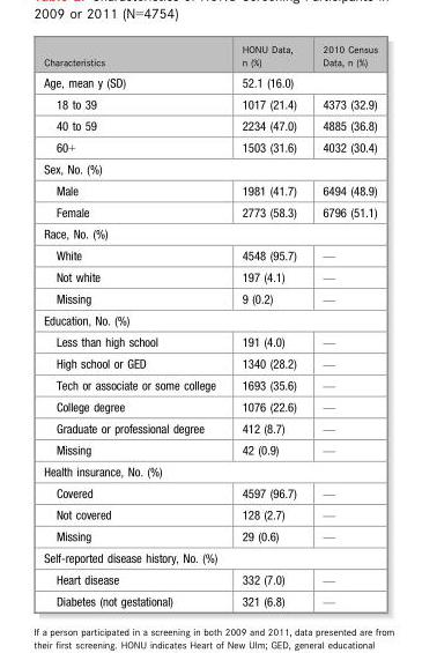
<table><thead><tr><td>Characteristics</td><td>HONU Data, n (%)</td><td>2010 Census Data, n (%)</td></tr></thead><tbody><tr><td>Age, mean y (SD)</td><td colspan="2">52.1 (16.0)</td></tr><tr><td>18 to 39</td><td>1017 (21.4)</td><td>4373 (32.9)</td></tr><tr><td>40 to 59</td><td>2234 (47.0)</td><td>4885 (36.8)</td></tr><tr><td>60+</td><td>1503 (31.6)</td><td>4032 (30.4)</td></tr><tr><td colspan="3">Sex, No. (%)</td></tr><tr><td>Male</td><td>1981 (41.7)</td><td>6494 (48.9)</td></tr><tr><td>Female</td><td>2773 (58.3)</td><td>6796 (51.1)</td></tr><tr><td colspan="3">Race, No. (%)</td></tr><tr><td>White</td><td>4548 (95.7)</td><td>—</td></tr><tr><td>Not white</td><td>197 (4.1)</td><td>—</td></tr><tr><td>Missing</td><td>9 (0.2)</td><td>—</td></tr><tr><td colspan="3">Education, No. (%)</td></tr><tr><td>Less than high school</td><td>191 (4.0)</td><td>—</td></tr><tr><td>High school or GED</td><td>1340 (28.2)</td><td>—</td></tr><tr><td>Tech or associate or some college</td><td>1693 (35.6)</td><td>—</td></tr><tr><td>College degree</td><td>1076 (22.6)</td><td>—</td></tr><tr><td>Graduate or professional degree</td><td>412 (8.7)</td><td>—</td></tr><tr><td>Missing</td><td>42 (0.9)</td><td>—</td></tr><tr><td colspan="3">Health insurance, No. (%)</td></tr><tr><td>Covered</td><td>4597 (96.7)</td><td>—</td></tr><tr><td>Not covered</td><td>128 (2.7)</td><td>—</td></tr><tr><td>Missing</td><td>29 (0.6)</td><td>—</td></tr><tr><td colspan="3">Self-reported disease history, No. (%)</td></tr><tr><td>Heart disease</td><td>332 (7.0)</td><td>—</td></tr><tr><td>Diabetes (not gestational)</td><td>321 (6.8)</td><td>—</td></tr></tbody></table>